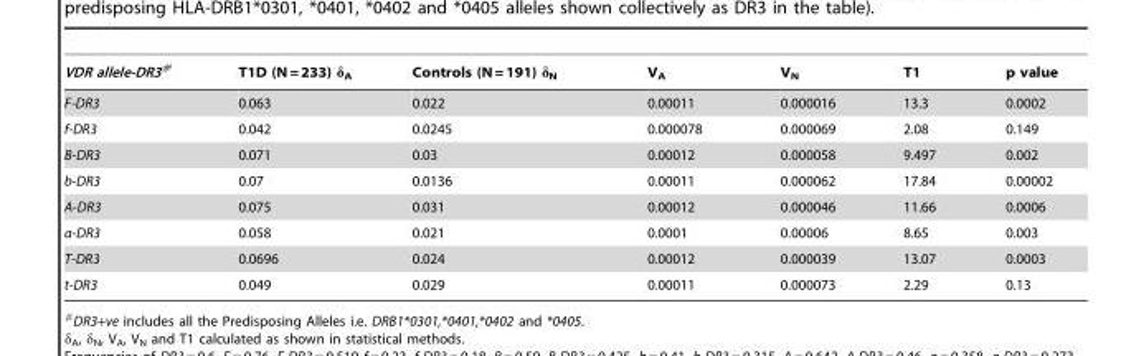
<table><thead><tr><td>VDR allele-DR3#</td><td>T1D (N = 233) δ<sub>A</sub></td><td>Controls (N = 191) δ<sub>N</sub></td><td>V<sub>A</sub></td><td>V<sub>N</sub></td><td>T1</td><td>p value</td></tr></thead><tbody><tr><td>F-DR3</td><td>0.063</td><td>0.022</td><td>0.00011</td><td>0.000016</td><td>13.3</td><td>0.0002</td></tr><tr><td>f-DR3</td><td>0.042</td><td>0.0245</td><td>0.000078</td><td>0.000069</td><td>2.08</td><td>0.149</td></tr><tr><td>B-DR3</td><td>0.071</td><td>0.03</td><td>0.00012</td><td>0.000058</td><td>9.497</td><td>0.002</td></tr><tr><td>b-DR3</td><td>0.07</td><td>0.0136</td><td>0.00011</td><td>0.000062</td><td>17.84</td><td>0.00002</td></tr><tr><td>A-DR3</td><td>0.075</td><td>0.031</td><td>0.00012</td><td>0.000046</td><td>11.66</td><td>0.0006</td></tr><tr><td>a-DR3</td><td>0.058</td><td>0.021</td><td>0.0001</td><td>0.00006</td><td>8.65</td><td>0.003</td></tr><tr><td>T-DR3</td><td>0.0696</td><td>0.024</td><td>0.00012</td><td>0.000039</td><td>13.07</td><td>0.0003</td></tr><tr><td>t-DR3</td><td>0.049</td><td>0.029</td><td>0.00011</td><td>0.000073</td><td>2.29</td><td>0.13</td></tr></tbody></table>